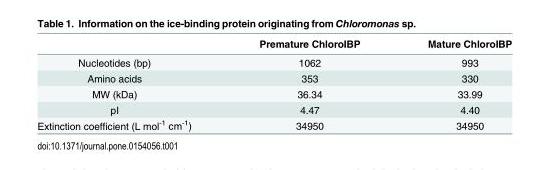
<table><thead><tr><td></td><td>Premature ChloroIBP</td><td>Mature ChloroIBP</td></tr></thead><tbody><tr><td>Nucleotides (bp)</td><td>1062</td><td>993</td></tr><tr><td>Amino acids</td><td>353</td><td>330</td></tr><tr><td>MW (kDa)</td><td>36.34</td><td>33.99</td></tr><tr><td>pI</td><td>4.47</td><td>4.40</td></tr><tr><td>Extinction coefficient (L mol<sup>-1</sup> cm<sup>-1</sup>)</td><td>34950</td><td>34950</td></tr></tbody></table>